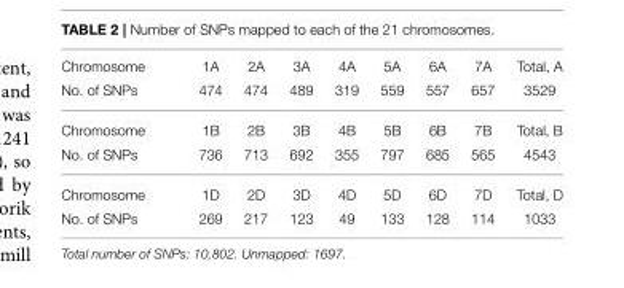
<table><tbody><tr><td>Chromosome</td><td>1A</td><td>2A</td><td>3A</td><td>4A</td><td>5A</td><td>6A</td><td>7A</td><td>Total, A</td></tr><tr><td>No. of SNPs</td><td>474</td><td>474</td><td>489</td><td>319</td><td>559</td><td>557</td><td>657</td><td>3529</td></tr><tr><td>Chromosome</td><td>1B</td><td>2B</td><td>3B</td><td>4B</td><td>5B</td><td>6B</td><td>7B</td><td>Total, B</td></tr><tr><td>No. of SNPs</td><td>736</td><td>713</td><td>692</td><td>355</td><td>797</td><td>685</td><td>565</td><td>4543</td></tr><tr><td>Chromosome</td><td>1D</td><td>2D</td><td>3D</td><td>4D</td><td>5D</td><td>6D</td><td>7D</td><td>Total, D</td></tr><tr><td>No. of SNPs</td><td>269</td><td>217</td><td>123</td><td>49</td><td>133</td><td>128</td><td>114</td><td>1033</td></tr></tbody></table>